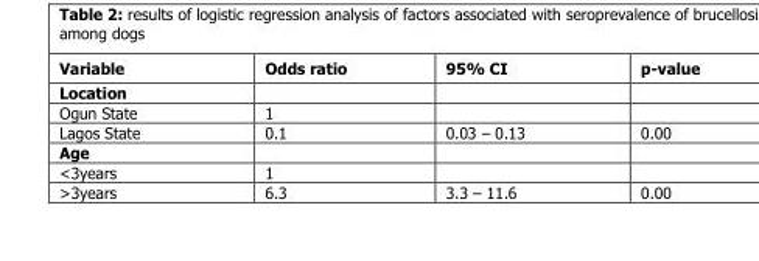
<table><thead><tr><td>Variable</td><td>Odds ratio</td><td>95% CI</td><td>p-value</td></tr></thead><tbody><tr><td colspan="4">Location</td></tr><tr><td>Ogun State</td><td>1</td><td></td><td></td></tr><tr><td>Lagos State</td><td>0.1</td><td>0.03 – 0.13</td><td>0.00</td></tr><tr><td colspan="4">Age</td></tr><tr><td>&lt;3years</td><td>1</td><td></td><td></td></tr><tr><td>&gt;3years</td><td>6.3</td><td>3.3 – 11.6</td><td>0.00</td></tr></tbody></table>